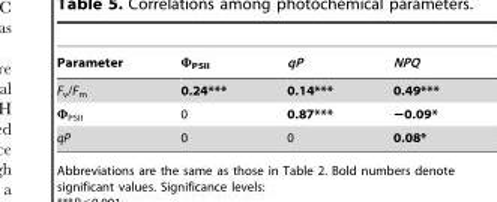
<table><thead><tr><td>Parameter</td><td>Φ<sub>PSII</sub></td><td>qP</td><td>NPQ</td></tr></thead><tbody><tr><td>F<sub>v</sub>/F<sub>m</sub></td><td>0.24***</td><td>0.14***</td><td>0.49***</td></tr><tr><td>Φ<sub>PSII</sub></td><td>0</td><td>0.87***</td><td>−0.09*</td></tr><tr><td>qP</td><td>0</td><td>0</td><td>0.08*</td></tr></tbody></table>